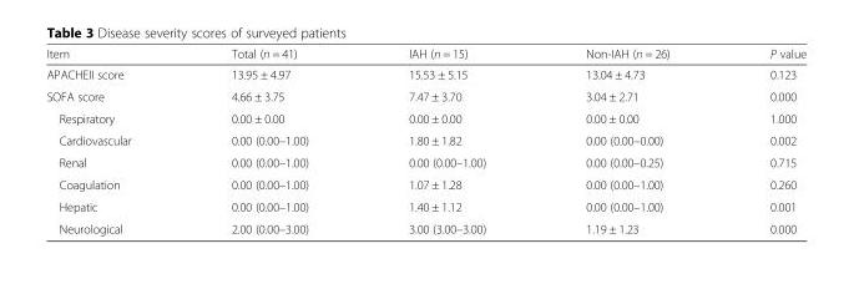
<table><thead><tr><td>Item</td><td>Total (n = 41)</td><td>IAH (n = 15)</td><td>Non-IAH (n = 26)</td><td>P value</td></tr></thead><tbody><tr><td>APACHEII score</td><td>13.95 ± 4.97</td><td>15.53 ± 5.15</td><td>13.04 ± 4.73</td><td>0.123</td></tr><tr><td>SOFA score</td><td>4.66 ± 3.75</td><td>7.47 ± 3.70</td><td>3.04 ± 2.71</td><td>0.000</td></tr><tr><td>Respiratory</td><td>0.00 ± 0.00</td><td>0.00 ± 0.00</td><td>0.00 ± 0.00</td><td>1.000</td></tr><tr><td>Cardiovascular</td><td>0.00 (0.00–1.00)</td><td>1.80 ± 1.82</td><td>0.00 (0.00–0.00)</td><td>0.002</td></tr><tr><td>Renal</td><td>0.00 (0.00–1.00)</td><td>0.00 (0.00–1.00)</td><td>0.00 (0.00–0.25)</td><td>0.715</td></tr><tr><td>Coagulation</td><td>0.00 (0.00–1.00)</td><td>1.07 ± 1.28</td><td>0.00 (0.00–1.00)</td><td>0.260</td></tr><tr><td>Hepatic</td><td>0.00 (0.00–1.00)</td><td>1.40 ± 1.12</td><td>0.00 (0.00–1.00)</td><td>0.001</td></tr><tr><td>Neurological</td><td>2.00 (0.00–3.00)</td><td>3.00 (3.00–3.00)</td><td>1.19 ± 1.23</td><td>0.000</td></tr></tbody></table>